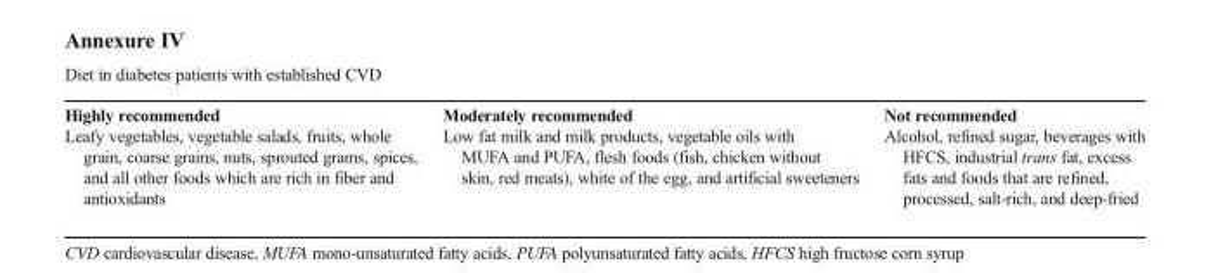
<table><thead><tr><td colspan="3">Diet in diabetes patients with established CVD</td></tr><tr><td>Highly recommended</td><td>Moderately recommended</td><td>Not recommended</td></tr></thead><tbody><tr><td>Leafy vegetables, vegetable salads, fruits, whole grain, coarse grains, nuts, sprouted grams, spices, and all other foods which are rich in fiber and antioxidants</td><td>Low fat milk and milk products, vegetable oils with MUFA and PUFA, flesh foods (fish, chicken without skin, red meats), white of the egg, and artificial sweeteners</td><td>Alcohol, refined sugar, beverages with HFCS, industrial trans fat, excess fats and foods that are refined, processed, salt-rich, and deep-fried</td></tr></tbody></table>